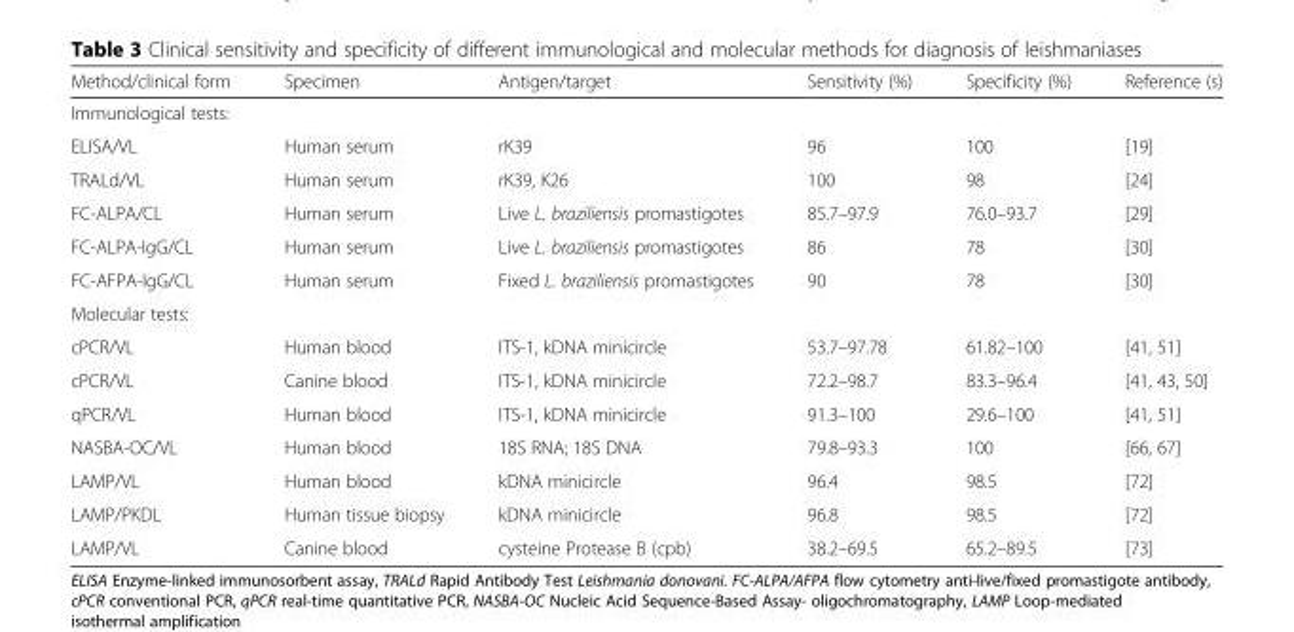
<table><thead><tr><td>Method/clinical form</td><td>Specimen</td><td>Antigen/target</td><td>Sensitivity (%)</td><td>Specificity (%)</td><td>Reference (s)</td></tr></thead><tbody><tr><td colspan="6">Immunological tests:</td></tr><tr><td>ELISA/VL</td><td>Human serum</td><td>rK39</td><td>96</td><td>100</td><td>[19]</td></tr><tr><td>TRALd/VL</td><td>Human serum</td><td>rK39, K26</td><td>100</td><td>98</td><td>[24]</td></tr><tr><td>FC-ALPA/CL</td><td>Human serum</td><td>Live L. braziliensis promastigotes</td><td>85.7–97.9</td><td>76.0–93.7</td><td>[29]</td></tr><tr><td>FC-ALPA-IgG/CL</td><td>Human serum</td><td>Live L. braziliensis promastigotes</td><td>86</td><td>78</td><td>[30]</td></tr><tr><td>FC-AFPA-IgG/CL</td><td>Human serum</td><td>Fixed L. braziliensis promastigotes</td><td>90</td><td>78</td><td>[30]</td></tr><tr><td colspan="6">Molecular tests:</td></tr><tr><td>cPCR/VL</td><td>Human blood</td><td>ITS-1, kDNA minicircle</td><td>53.7–97.78</td><td>61.82–100</td><td>[41, 51]</td></tr><tr><td>cPCR/VL</td><td>Canine blood</td><td>ITS-1, kDNA minicircle</td><td>72.2–98.7</td><td>83.3–96.4</td><td>[41, 43, 50]</td></tr><tr><td>qPCR/VL</td><td>Human blood</td><td>ITS-1, kDNA minicircle</td><td>91.3–100</td><td>29.6–100</td><td>[41, 51]</td></tr><tr><td>NASBA-OC/VL</td><td>Human blood</td><td>18S RNA; 18S DNA</td><td>79.8–93.3</td><td>100</td><td>[66, 67]</td></tr><tr><td>LAMP/VL</td><td>Human blood</td><td>kDNA minicircle</td><td>96.4</td><td>98.5</td><td>[72]</td></tr><tr><td>LAMP/PKDL</td><td>Human tissue biopsy</td><td>kDNA minicircle</td><td>96.8</td><td>98.5</td><td>[72]</td></tr><tr><td>LAMP/VL</td><td>Canine blood</td><td>cysteine Protease B (cpb)</td><td>38.2–69.5</td><td>65.2–89.5</td><td>[73]</td></tr></tbody></table>